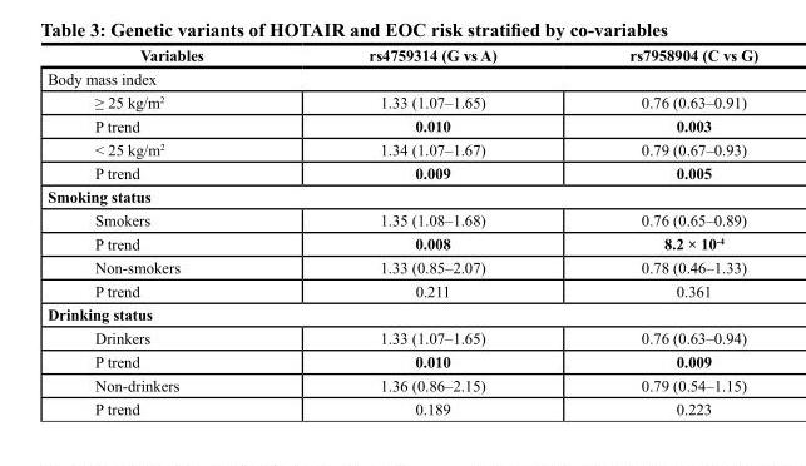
<table><thead><tr><td>Variables</td><td>rs4759314 (G vs A)</td><td>rs7958904 (C vs G)</td></tr></thead><tbody><tr><td colspan="3">Body mass index</td></tr><tr><td>≥ 25 kg/m<sup>2</sup></td><td>1.33 (1.07–1.65)</td><td>0.76 (0.63–0.91)</td></tr><tr><td>P trend</td><td>0.010</td><td>0.003</td></tr><tr><td>&lt; 25 kg/m<sup>2</sup></td><td>1.34 (1.07–1.67)</td><td>0.79 (0.67–0.93)</td></tr><tr><td>P trend</td><td>0.009</td><td>0.005</td></tr><tr><td colspan="3">Smoking status</td></tr><tr><td>Smokers</td><td>1.35 (1.08–1.68)</td><td>0.76 (0.65–0.89)</td></tr><tr><td>P trend</td><td>0.008</td><td>8.2 × 10<sup>-4</sup></td></tr><tr><td>Non-smokers</td><td>1.33 (0.85–2.07)</td><td>0.78 (0.46–1.33)</td></tr><tr><td>P trend</td><td>0.211</td><td>0.361</td></tr><tr><td colspan="3">Drinking status</td></tr><tr><td>Drinkers</td><td>1.33 (1.07–1.65)</td><td>0.76 (0.63–0.94)</td></tr><tr><td>P trend</td><td>0.010</td><td>0.009</td></tr><tr><td>Non-drinkers</td><td>1.36 (0.86–2.15)</td><td>0.79 (0.54–1.15)</td></tr><tr><td>P trend</td><td>0.189</td><td>0.223</td></tr></tbody></table>